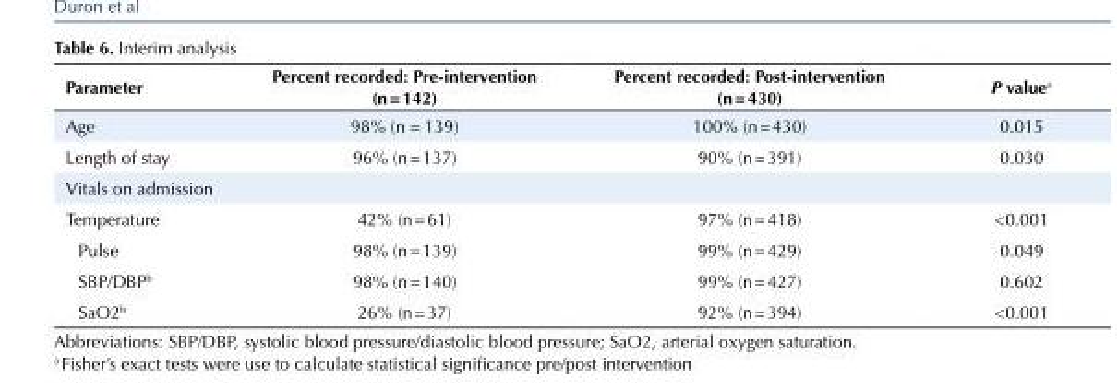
<table><tbody><tr><td>Parameter</td><td>Percent recorded: Pre-intervention (n = 142)</td><td>Percent recorded: Post-intervention (n = 430)</td><td>P value<sup>a</sup></td></tr><tr><td>Age</td><td>98% (n = 139)</td><td>100% (n = 430)</td><td>0.015</td></tr><tr><td>Length of stay</td><td>96% (n = 137)</td><td>90% (n = 391)</td><td>0.030</td></tr><tr><td colspan="4">Vitals on admission</td></tr><tr><td>Temperature</td><td>42% (n = 61)</td><td>97% (n = 418)</td><td>&lt;0.001</td></tr><tr><td>Pulse</td><td>98% (n = 139)</td><td>99% (n = 429)</td><td>0.049</td></tr><tr><td>SBP/DBP<sup>b</sup></td><td>98% (n = 140)</td><td>99% (n = 427)</td><td>0.602</td></tr><tr><td>SaO2<sup>b</sup></td><td>26% (n = 37)</td><td>92% (n = 394)</td><td>&lt;0.001</td></tr></tbody></table>